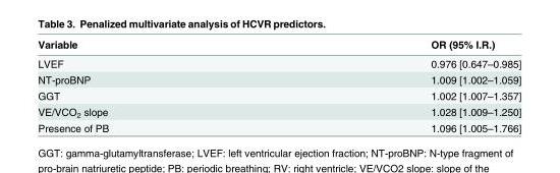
<table><thead><tr><td>Variable</td><td>OR (95% I.R.)</td></tr></thead><tbody><tr><td>LVEF</td><td>0.976 [0.647–0.985]</td></tr><tr><td>NT-proBNP</td><td>1.009 [1.002–1.059]</td></tr><tr><td>GGT</td><td>1.002 [1.007–1.357]</td></tr><tr><td>VE/VCO<sub>2</sub> slope</td><td>1.028 [1.009–1.250]</td></tr><tr><td>Presence of PB</td><td>1.096 [1.005–1.766]</td></tr></tbody></table>